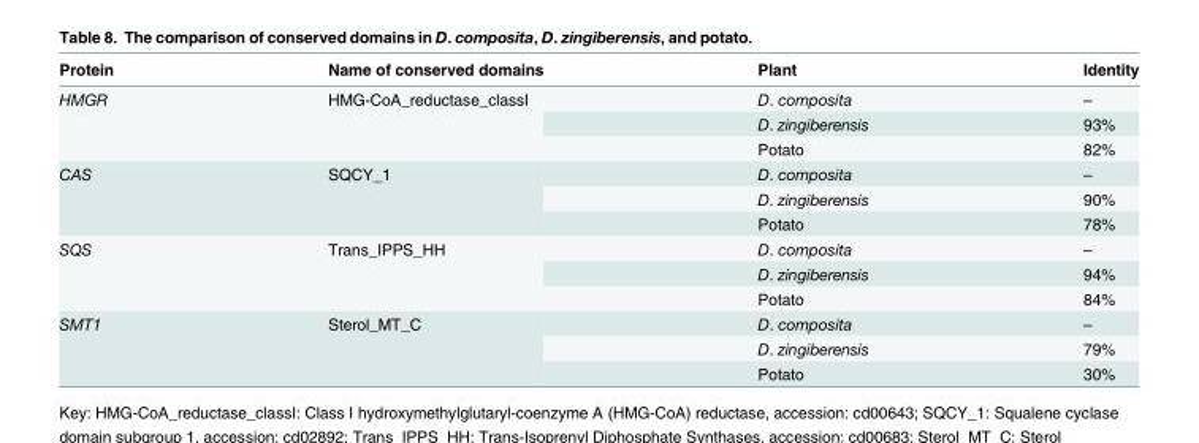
<table><thead><tr><td>Protein</td><td>Name of conserved domains</td><td>Plant</td><td>Identity</td></tr></thead><tbody><tr><td rowspan="3">HMGR</td><td rowspan="3">HMG-CoA_reductase_classI</td><td>D. composita</td><td>–</td></tr><tr><td>D. zingiberensis</td><td>93%</td></tr><tr><td>Potato</td><td>82%</td></tr><tr><td rowspan="3">CAS</td><td rowspan="3">SQCY_1</td><td>D. composita</td><td>–</td></tr><tr><td>D. zingiberensis</td><td>90%</td></tr><tr><td>Potato</td><td>78%</td></tr><tr><td rowspan="3">SQS</td><td rowspan="3">Trans_IPPS_HH</td><td>D. composita</td><td>–</td></tr><tr><td>D. zingiberensis</td><td>94%</td></tr><tr><td>Potato</td><td>84%</td></tr><tr><td rowspan="3">SMT1</td><td rowspan="3">Sterol_MT_C</td><td>D. composita</td><td>–</td></tr><tr><td>D. zingiberensis</td><td>79%</td></tr><tr><td>Potato</td><td>30%</td></tr></tbody></table>